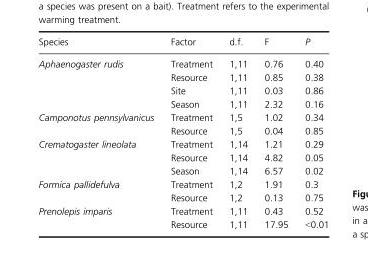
<table><thead><tr><td>Species</td><td>Factor</td><td>d.f.</td><td>F</td><td>P</td></tr></thead><tbody><tr><td rowspan="4">Aphaenogaster rudis</td><td>Treatment</td><td>1,11</td><td>0.76</td><td>0.40</td></tr><tr><td>Resource</td><td>1,11</td><td>0.85</td><td>0.38</td></tr><tr><td>Site</td><td>1,11</td><td>0.03</td><td>0.86</td></tr><tr><td>Season</td><td>1,11</td><td>2.32</td><td>0.16</td></tr><tr><td rowspan="2">Camponotus pennsylvanicus</td><td>Treatment</td><td>1,5</td><td>1.02</td><td>0.34</td></tr><tr><td>Resource</td><td>1,5</td><td>0.04</td><td>0.85</td></tr><tr><td rowspan="3">Crematogaster lineolata</td><td>Treatment</td><td>1,14</td><td>1.21</td><td>0.29</td></tr><tr><td>Resource</td><td>1,14</td><td>4.82</td><td>0.05</td></tr><tr><td>Season</td><td>1,14</td><td>6.57</td><td>0.02</td></tr><tr><td rowspan="2">Formica pallidefulva</td><td>Treatment</td><td>1,2</td><td>1.91</td><td>0.3</td></tr><tr><td>Resource</td><td>1,2</td><td>0.13</td><td>0.75</td></tr><tr><td rowspan="2">Prenolepis imparis</td><td>Treatment</td><td>1,11</td><td>0.43</td><td>0.52</td></tr><tr><td>Resource</td><td>1,11</td><td>17.95</td><td>&lt;0.01</td></tr></tbody></table>